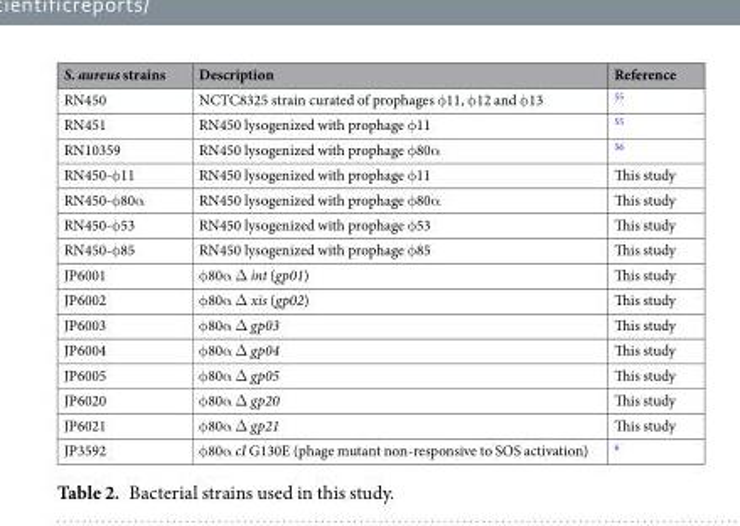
<table><thead><tr><td>S. aureus strains</td><td>Description</td><td>Reference</td></tr></thead><tbody><tr><td>RN450</td><td>NCTC8325 strain curated of prophages φ11, φ12 and φ13</td><td><sup>55</sup></td></tr><tr><td>RN451</td><td>RN450 lysogenized with prophage φ11</td><td><sup>55</sup></td></tr><tr><td>RN10359</td><td>RN450 lysogenized with prophage φ80α</td><td><sup>56</sup></td></tr><tr><td>RN450-φ11</td><td>RN450 lysogenized with prophage φ11</td><td>This study</td></tr><tr><td>RN450-φ80α</td><td>RN450 lysogenized with prophage φ80α</td><td>This study</td></tr><tr><td>RN450-φ53</td><td>RN450 lysogenized with prophage φ53</td><td>This study</td></tr><tr><td>RN450-φ85</td><td>RN450 lysogenized with prophage φ85</td><td>This study</td></tr><tr><td>JP6001</td><td>φ80α Δ int (gp01)</td><td>This study</td></tr><tr><td>JP6002</td><td>φ80α Δ xis (gp02)</td><td>This study</td></tr><tr><td>JP6003</td><td>φ80α Δ gp03</td><td>This study</td></tr><tr><td>JP6004</td><td>φ80α Δ gp04</td><td>This study</td></tr><tr><td>JP6005</td><td>φ80α Δ gp05</td><td>This study</td></tr><tr><td>JP6020</td><td>φ80α Δ gp20</td><td>This study</td></tr><tr><td>JP6021</td><td>φ80α Δ gp21</td><td>This study</td></tr><tr><td>JP3592</td><td>φ80α cI G130E (phage mutant non-responsive to SOS activation)</td><td><sup>6</sup></td></tr></tbody></table>